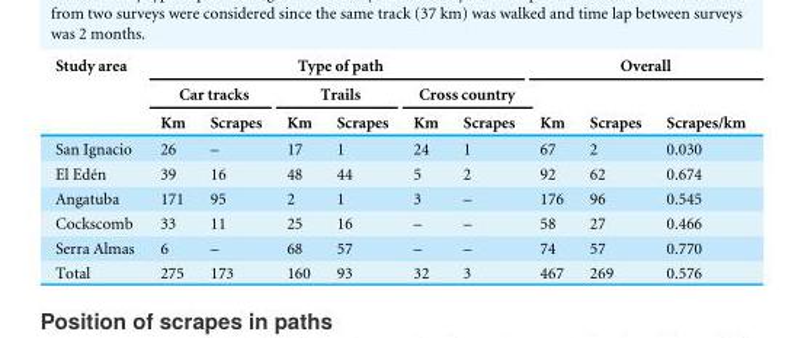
<table><thead><tr><td rowspan="3">Study area</td><td colspan="6">Type of path</td><td colspan="3">Overall</td></tr><tr><td colspan="2">Car tracks</td><td colspan="2">Trails</td><td colspan="2">Cross country</td><td rowspan="2">Km</td><td rowspan="2">Scrapes</td><td rowspan="2">Scrapes/km</td></tr><tr><td>Km</td><td>Scrapes</td><td>Km</td><td>Scrapes</td><td>Km</td><td>Scrapes</td></tr></thead><tbody><tr><td>San Ignacio</td><td>26</td><td>–</td><td>17</td><td>1</td><td>24</td><td>1</td><td>67</td><td>2</td><td>0.030</td></tr><tr><td>El Edén</td><td>39</td><td>16</td><td>48</td><td>44</td><td>5</td><td>2</td><td>92</td><td>62</td><td>0.674</td></tr><tr><td>Angatuba</td><td>171</td><td>95</td><td>2</td><td>1</td><td>3</td><td>–</td><td>176</td><td>96</td><td>0.545</td></tr><tr><td>Cockscomb</td><td>33</td><td>11</td><td>25</td><td>16</td><td>–</td><td>–</td><td>58</td><td>27</td><td>0.466</td></tr><tr><td>Serra Almas</td><td>6</td><td>–</td><td>68</td><td>57</td><td>–</td><td>–</td><td>74</td><td>57</td><td>0.770</td></tr><tr><td>Total</td><td>275</td><td>173</td><td>160</td><td>93</td><td>32</td><td>3</td><td>467</td><td>269</td><td>0.576</td></tr></tbody></table>